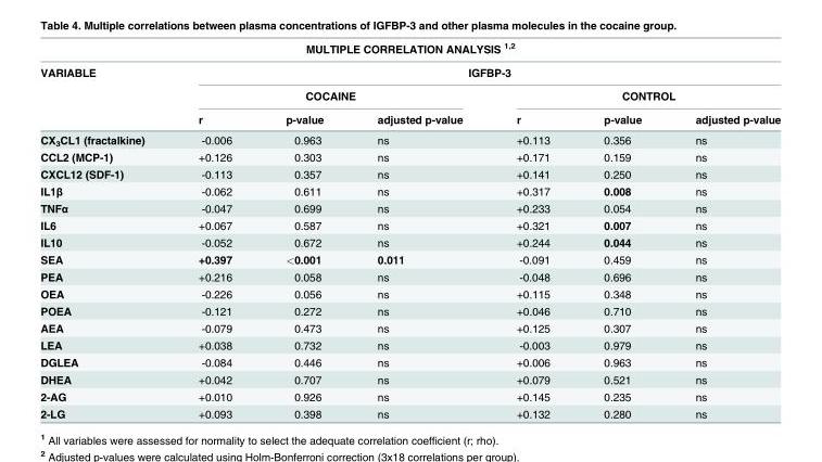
<table><thead><tr><td colspan="7">MULTIPLE CORRELATION ANALYSIS <sup>1,2</sup></td></tr><tr><td rowspan="3">VARIABLE</td><td colspan="6">IGFBP-3</td></tr><tr><td colspan="3">COCAINE</td><td colspan="3">CONTROL</td></tr><tr><td>r</td><td>p-value</td><td>adjusted p-value</td><td>r</td><td>p-value</td><td>adjusted p-value</td></tr></thead><tbody><tr><td>CX<sub>3</sub>CL1 (fractalkine)</td><td>-0.006</td><td>0.963</td><td>ns</td><td>+0.113</td><td>0.356</td><td>ns</td></tr><tr><td>CCL2 (MCP-1)</td><td>+0.126</td><td>0.303</td><td>ns</td><td>+0.171</td><td>0.159</td><td>ns</td></tr><tr><td>CXCL12 (SDF-1)</td><td>-0.113</td><td>0.357</td><td>ns</td><td>+0.141</td><td>0.250</td><td>ns</td></tr><tr><td>IL1β</td><td>-0.062</td><td>0.611</td><td>ns</td><td>+0.317</td><td>0.008</td><td>ns</td></tr><tr><td>TNFα</td><td>-0.047</td><td>0.699</td><td>ns</td><td>+0.233</td><td>0.054</td><td>ns</td></tr><tr><td>IL6</td><td>+0.067</td><td>0.587</td><td>ns</td><td>+0.321</td><td>0.007</td><td>ns</td></tr><tr><td>IL10</td><td>-0.052</td><td>0.672</td><td>ns</td><td>+0.244</td><td>0.044</td><td>ns</td></tr><tr><td>SEA</td><td>+0.397</td><td>&lt;0.001</td><td>0.011</td><td>-0.091</td><td>0.459</td><td>ns</td></tr><tr><td>PEA</td><td>+0.216</td><td>0.058</td><td>ns</td><td>-0.048</td><td>0.696</td><td>ns</td></tr><tr><td>OEA</td><td>-0.226</td><td>0.056</td><td>ns</td><td>+0.115</td><td>0.348</td><td>ns</td></tr><tr><td>POEA</td><td>-0.121</td><td>0.272</td><td>ns</td><td>+0.046</td><td>0.710</td><td>ns</td></tr><tr><td>AEA</td><td>-0.079</td><td>0.473</td><td>ns</td><td>+0.125</td><td>0.307</td><td>ns</td></tr><tr><td>LEA</td><td>+0.038</td><td>0.732</td><td>ns</td><td>-0.003</td><td>0.979</td><td>ns</td></tr><tr><td>DGLEA</td><td>-0.084</td><td>0.446</td><td>ns</td><td>+0.006</td><td>0.963</td><td>ns</td></tr><tr><td>DHEA</td><td>+0.042</td><td>0.707</td><td>ns</td><td>+0.079</td><td>0.521</td><td>ns</td></tr><tr><td>2-AG</td><td>+0.010</td><td>0.926</td><td>ns</td><td>+0.145</td><td>0.235</td><td>ns</td></tr><tr><td>2-LG</td><td>+0.093</td><td>0.398</td><td>ns</td><td>+0.132</td><td>0.280</td><td>ns</td></tr></tbody></table>